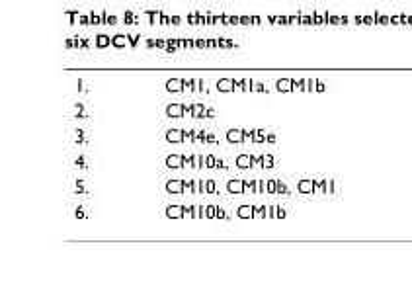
<table><tbody><tr><td>1.</td><td>CM1, CM1a, CM1b</td></tr><tr><td>2.</td><td>CM2c</td></tr><tr><td>3.</td><td>CM4e, CM5e</td></tr><tr><td>4.</td><td>CM10a, CM3</td></tr><tr><td>5.</td><td>CM10, CM10b, CM1</td></tr><tr><td>6.</td><td>CM10b, CM1b</td></tr></tbody></table>